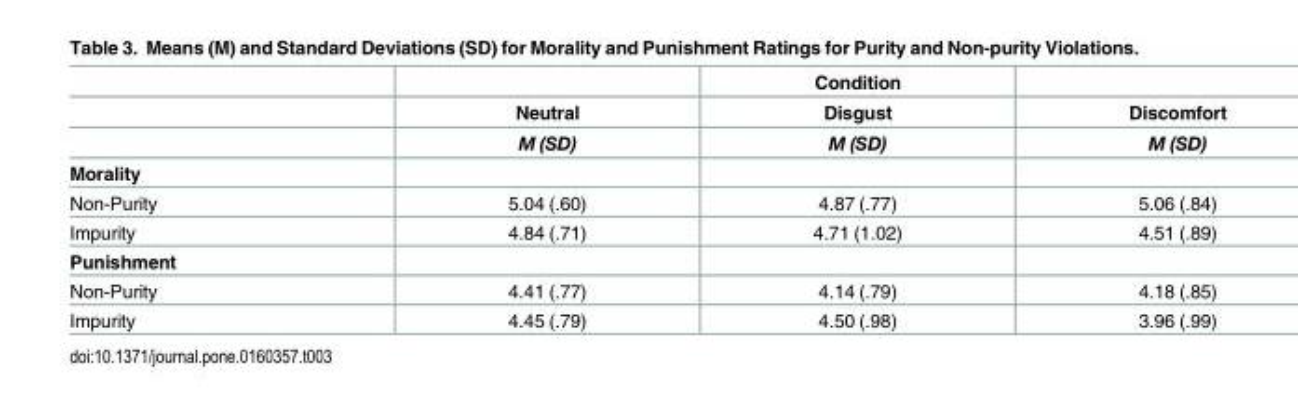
<table><thead><tr><td rowspan="3"></td><td rowspan="3">Neutral M (SD)</td><td rowspan="3">Condition Disgust M (SD)</td><td rowspan="3">Discomfort M (SD)</td></tr><tr></tr><tr></tr></thead><tbody><tr><td colspan="4">Morality</td></tr><tr><td>Non-Purity</td><td>5.04 (.60)</td><td>4.87 (.77)</td><td>5.06 (.84)</td></tr><tr><td>Impurity</td><td>4.84 (.71)</td><td>4.71 (1.02)</td><td>4.51 (.89)</td></tr><tr><td colspan="4">Punishment</td></tr><tr><td>Non-Purity</td><td>4.41 (.77)</td><td>4.14 (.79)</td><td>4.18 (.85)</td></tr><tr><td>Impurity</td><td>4.45 (.79)</td><td>4.50 (.98)</td><td>3.96 (.99)</td></tr></tbody></table>